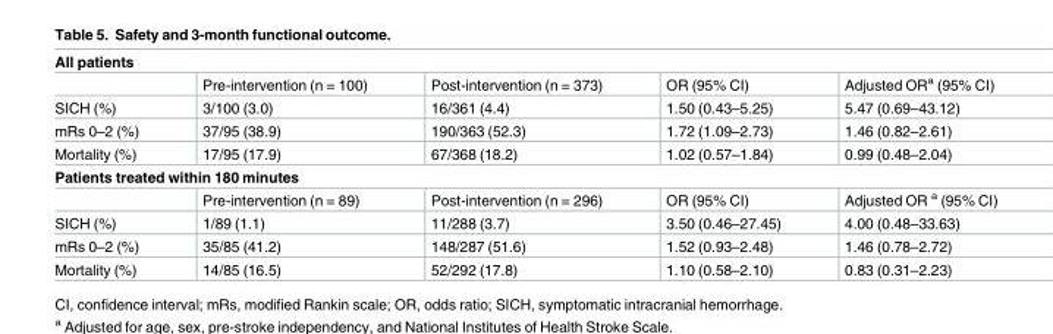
<table><tbody><tr><td colspan="5">All patients</td></tr><tr><td></td><td>Pre-intervention (n = 100)</td><td>Post-intervention (n = 373)</td><td>OR (95% CI)</td><td>Adjusted OR<sup>a</sup> (95% CI)</td></tr><tr><td>SICH (%)</td><td>3/100 (3.0)</td><td>16/361 (4.4)</td><td>1.50 (0.43–5.25)</td><td>5.47 (0.69–43.12)</td></tr><tr><td>mRs 0–2 (%)</td><td>37/95 (38.9)</td><td>190/363 (52.3)</td><td>1.72 (1.09–2.73)</td><td>1.46 (0.82–2.61)</td></tr><tr><td>Mortality (%)</td><td>17/95 (17.9)</td><td>67/368 (18.2)</td><td>1.02 (0.57–1.84)</td><td>0.99 (0.48–2.04)</td></tr><tr><td colspan="5">Patients treated within 180 minutes</td></tr><tr><td></td><td>Pre-intervention (n = 89)</td><td>Post-intervention (n = 296)</td><td>OR (95% CI)</td><td>Adjusted OR <sup>a</sup> (95% CI)</td></tr><tr><td>SICH (%)</td><td>1/89 (1.1)</td><td>11/288 (3.7)</td><td>3.50 (0.46–27.45)</td><td>4.00 (0.48–33.63)</td></tr><tr><td>mRs 0–2 (%)</td><td>35/85 (41.2)</td><td>148/287 (51.6)</td><td>1.52 (0.93–2.48)</td><td>1.46 (0.78–2.72)</td></tr><tr><td>Mortality (%)</td><td>14/85 (16.5)</td><td>52/292 (17.8)</td><td>1.10 (0.58–2.10)</td><td>0.83 (0.31–2.23)</td></tr></tbody></table>